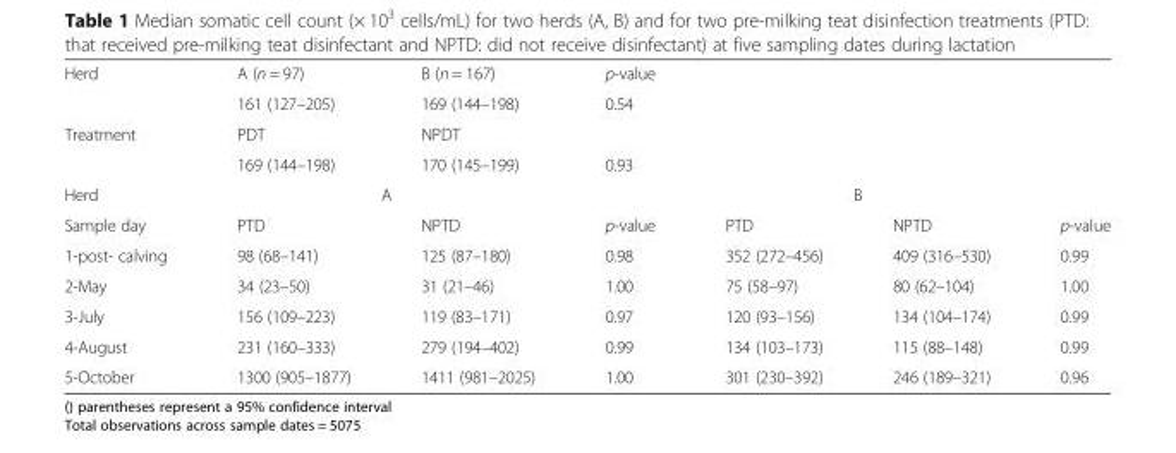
<table><tbody><tr><td rowspan="2">Herd</td><td>A (n = 97)</td><td>B (n = 167)</td><td colspan="4">p-value</td></tr><tr><td>161 (127–205)</td><td>169 (144–198)</td><td rowspan="2" colspan="4">0.54</td></tr><tr><td rowspan="2">Treatment</td><td>PDT</td><td>NPDT</td></tr><tr><td>169 (144–198)</td><td>170 (145–199)</td><td colspan="4">0.93</td></tr><tr><td>Herd</td><td colspan="2">A</td><td></td><td colspan="2">B</td><td></td></tr><tr><td>Sample day</td><td>PTD</td><td>NPTD</td><td>p-value</td><td>PTD</td><td>NPTD</td><td>p-value</td></tr><tr><td>1-post- calving</td><td>98 (68–141)</td><td>125 (87–180)</td><td>0.98</td><td>352 (272–456)</td><td>409 (316–530)</td><td>0.99</td></tr><tr><td>2-May</td><td>34 (23–50)</td><td>31 (21–46)</td><td>1.00</td><td>75 (58–97)</td><td>80 (62–104)</td><td>1.00</td></tr><tr><td>3-July</td><td>156 (109–223)</td><td>119 (83–171)</td><td>0.97</td><td>120 (93–156)</td><td>134 (104–174)</td><td>0.99</td></tr><tr><td>4-August</td><td>231 (160–333)</td><td>279 (194–402)</td><td>0.99</td><td>134 (103–173)</td><td>115 (88–148)</td><td>0.99</td></tr><tr><td>5-October</td><td>1300 (905–1877)</td><td>1411 (981–2025)</td><td>1.00</td><td>301 (230–392)</td><td>246 (189–321)</td><td>0.96</td></tr></tbody></table>